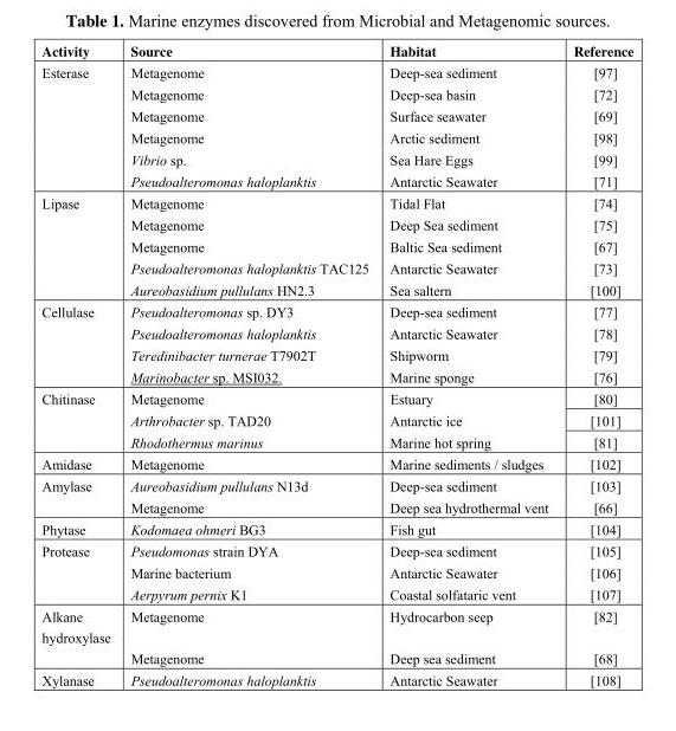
<table><thead><tr><td>Activity</td><td>Source</td><td>Habitat</td><td>Reference</td></tr></thead><tbody><tr><td rowspan="6">Esterase</td><td>Metagenome</td><td>Deep-sea sediment</td><td>[97]</td></tr><tr><td>Metagenome</td><td>Deep-sea basin</td><td>[72]</td></tr><tr><td>Metagenome</td><td>Surface seawater</td><td>[69]</td></tr><tr><td>Metagenome</td><td>Arctic sediment</td><td>[98]</td></tr><tr><td>Vibrio sp.</td><td>Sea Hare Eggs</td><td>[99]</td></tr><tr><td>Pseudoalteromonas haloplanktis</td><td>Antarctic Seawater</td><td>[71]</td></tr><tr><td rowspan="5">Lipase</td><td>Metagenome</td><td>Tidal Flat</td><td>[74]</td></tr><tr><td>Metagenome</td><td>Deep Sea sediment</td><td>[75]</td></tr><tr><td>Metagenome</td><td>Baltic Sea sediment</td><td>[67]</td></tr><tr><td>Pseudoalteromonas haloplanktis TAC125</td><td>Antarctic Seawater</td><td>[73]</td></tr><tr><td>Aureobasidium pullulans HN2.3</td><td>Sea saltern</td><td>[100]</td></tr><tr><td rowspan="4">Cellulase</td><td>Pseudoalteromonas sp. DY3</td><td>Deep-sea sediment</td><td>[77]</td></tr><tr><td>Pseudoalteromonas haloplanktis</td><td>Antarctic Seawater</td><td>[78]</td></tr><tr><td>Teredinibacter turnerae T7902T</td><td>Shipworm</td><td>[79]</td></tr><tr><td>Marinobacter sp. MSI032.</td><td>Marine sponge</td><td>[76]</td></tr><tr><td rowspan="3">Chitinase</td><td>Metagenome</td><td>Estuary</td><td>[80]</td></tr><tr><td>Arthrobacter sp. TAD20</td><td>Antarctic ice</td><td>[101]</td></tr><tr><td>Rhodothermus marinus</td><td>Marine hot spring</td><td>[81]</td></tr><tr><td>Amidase</td><td>Metagenome</td><td>Marine sediments / sludges</td><td>[102]</td></tr><tr><td rowspan="2">Amylase</td><td>Aureobasidium pullulans N13d</td><td>Deep-sea sediment</td><td>[103]</td></tr><tr><td>Metagenome</td><td>Deep sea hydrothermal vent</td><td>[66]</td></tr><tr><td>Phytase</td><td>Kodomaea ohmeri BG3</td><td>Fish gut</td><td>[104]</td></tr><tr><td rowspan="3">Protease</td><td>Pseudomonas strain DYA</td><td>Deep-sea sediment</td><td>[105]</td></tr><tr><td>Marine bacterium</td><td>Antarctic Seawater</td><td>[106]</td></tr><tr><td>Aerpyrum pernix K1</td><td>Coastal solfataric vent</td><td>[107]</td></tr><tr><td rowspan="2">Alkane hydroxylase</td><td>Metagenome</td><td>Hydrocarbon seep</td><td>[82]</td></tr><tr><td>Metagenome</td><td>Deep sea sediment</td><td>[68]</td></tr><tr><td>Xylanase</td><td>Pseudoalteromonas haloplanktis</td><td>Antarctic Seawater</td><td>[108]</td></tr></tbody></table>